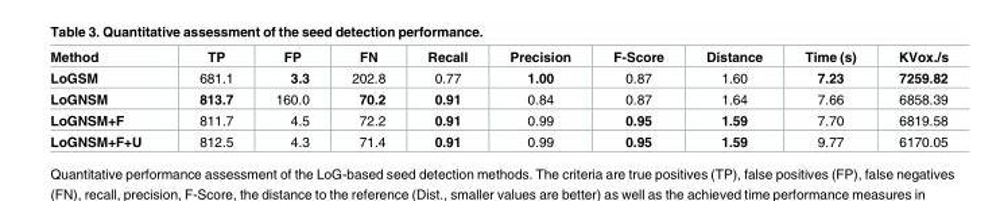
<table><thead><tr><td>Method</td><td>TP</td><td>FP</td><td>FN</td><td>Recall</td><td>Precision</td><td>F-Score</td><td>Distance</td><td>Time (s)</td><td>KVox./s</td></tr></thead><tbody><tr><td>LoGSM</td><td>681.1</td><td>3.3</td><td>202.8</td><td>0.77</td><td>1.00</td><td>0.87</td><td>1.60</td><td>7.23</td><td>7259.82</td></tr><tr><td>LoGNSM</td><td>813.7</td><td>160.0</td><td>70.2</td><td>0.91</td><td>0.84</td><td>0.87</td><td>1.64</td><td>7.66</td><td>6858.39</td></tr><tr><td>LoGNSM+F</td><td>811.7</td><td>4.5</td><td>72.2</td><td>0.91</td><td>0.99</td><td>0.95</td><td>1.59</td><td>7.70</td><td>6819.58</td></tr><tr><td>LoGNSM+F+U</td><td>812.5</td><td>4.3</td><td>71.4</td><td>0.91</td><td>0.99</td><td>0.95</td><td>1.59</td><td>9.77</td><td>6170.05</td></tr></tbody></table>